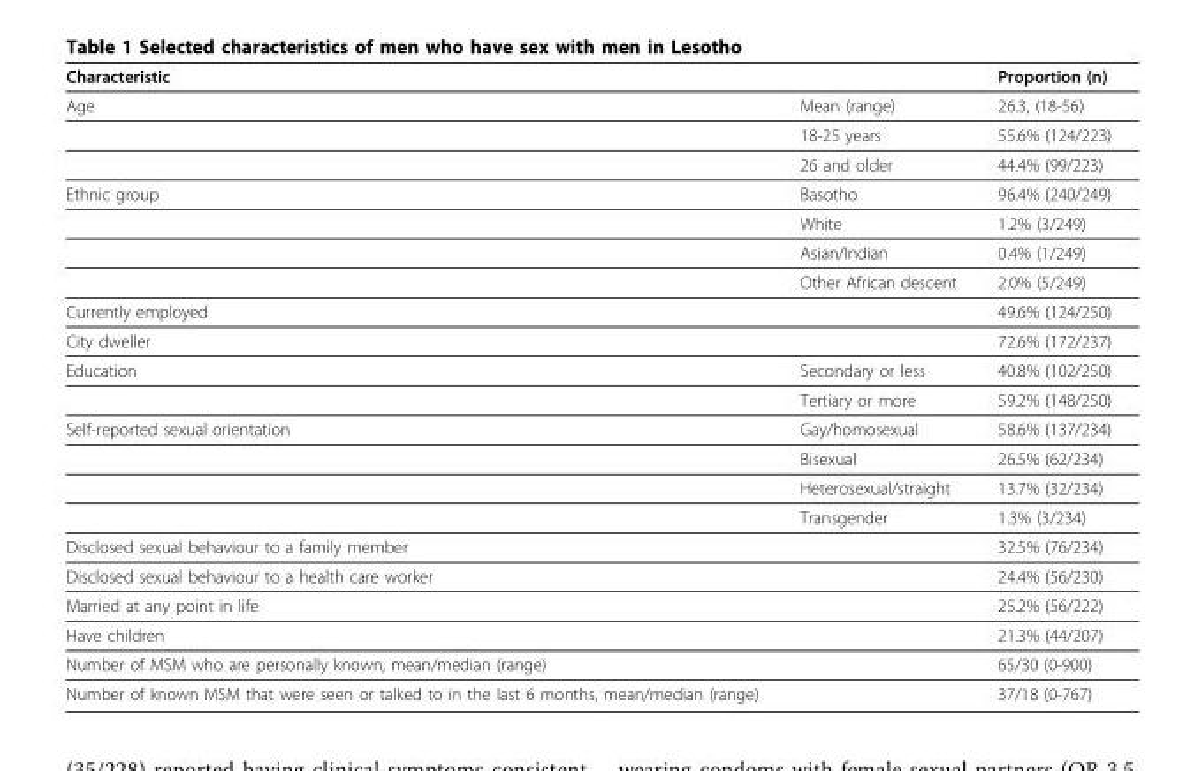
<table><thead><tr><td>Characteristic</td><td></td><td>Proportion (n)</td></tr></thead><tbody><tr><td rowspan="3">Age</td><td>Mean (range)</td><td>26.3, (18-56)</td></tr><tr><td>18-25 years</td><td>55.6% (124/223)</td></tr><tr><td>26 and older</td><td>44.4% (99/223)</td></tr><tr><td rowspan="4">Ethnic group</td><td>Basotho</td><td>96.4% (240/249)</td></tr><tr><td>White</td><td>1.2% (3/249)</td></tr><tr><td>Asian/Indian</td><td>0.4% (1/249)</td></tr><tr><td>Other African descent</td><td>2.0% (5/249)</td></tr><tr><td>Currently employed</td><td></td><td>49.6% (124/250)</td></tr><tr><td>City dweller</td><td></td><td>72.6% (172/237)</td></tr><tr><td rowspan="2">Education</td><td>Secondary or less</td><td>40.8% (102/250)</td></tr><tr><td>Tertiary or more</td><td>59.2% (148/250)</td></tr><tr><td rowspan="4">Self-reported sexual orientation</td><td>Gay/homosexual</td><td>58.6% (137/234)</td></tr><tr><td>Bisexual</td><td>26.5% (62/234)</td></tr><tr><td>Heterosexual/straight</td><td>13.7% (32/234)</td></tr><tr><td>Transgender</td><td>1.3% (3/234)</td></tr><tr><td>Disclosed sexual behaviour to a family member</td><td></td><td>32.5% (76/234)</td></tr><tr><td>Disclosed sexual behaviour to a health care worker</td><td></td><td>24.4% (56/230)</td></tr><tr><td>Married at any point in life</td><td></td><td>25.2% (56/222)</td></tr><tr><td>Have children</td><td></td><td>21.3% (44/207)</td></tr><tr><td>Number of MSM who are personally known, mean/median (range)</td><td></td><td>65/30 (0-900)</td></tr><tr><td>Number of known MSM that were seen or talked to in the last 6 months, mean/median (range)</td><td></td><td>37/18 (0-767)</td></tr></tbody></table>